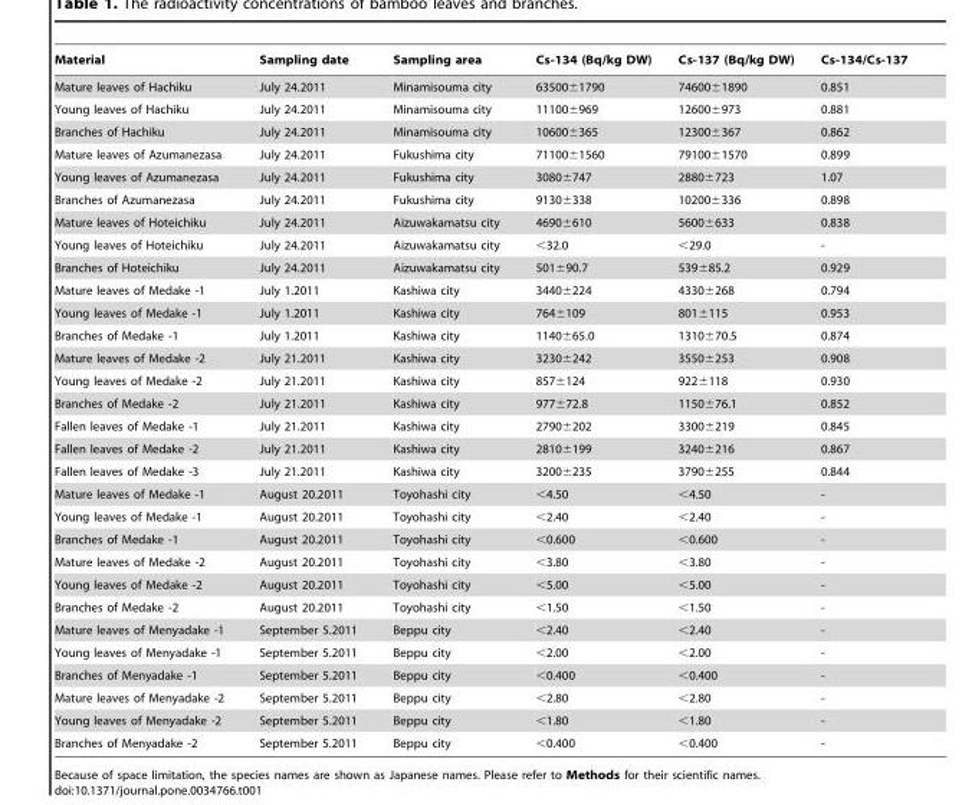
<table><thead><tr><td>Material</td><td>Sampling date</td><td>Sampling area</td><td>Cs-134 (Bq/kg DW)</td><td>Cs-137 (Bq/kg DW)</td><td>Cs-134/Cs-137</td></tr></thead><tbody><tr><td>Mature leaves of Hachiku</td><td>July 24.2011</td><td>Minamisouma city</td><td>63500±1790</td><td>74600±1890</td><td>0.851</td></tr><tr><td>Young leaves of Hachiku</td><td>July 24.2011</td><td>Minamisouma city</td><td>11100±969</td><td>12600±973</td><td>0.881</td></tr><tr><td>Branches of Hachiku</td><td>July 24.2011</td><td>Minamisouma city</td><td>10600±365</td><td>12300±367</td><td>0.862</td></tr><tr><td>Mature leaves of Azumanezasa</td><td>July 24.2011</td><td>Fukushima city</td><td>71100±1560</td><td>79100±1570</td><td>0.899</td></tr><tr><td>Young leaves of Azumanezasa</td><td>July 24.2011</td><td>Fukushima city</td><td>3080±747</td><td>2880±723</td><td>1.07</td></tr><tr><td>Branches of Azumanezasa</td><td>July 24.2011</td><td>Fukushima city</td><td>9130±338</td><td>10200±336</td><td>0.898</td></tr><tr><td>Mature leaves of Hoteichiku</td><td>July 24.2011</td><td>Aizuwakamatsu city</td><td>4690±610</td><td>5600±633</td><td>0.838</td></tr><tr><td>Young leaves of Hoteichiku</td><td>July 24.2011</td><td>Aizuwakamatsu city</td><td>&lt;32.0</td><td>&lt;29.0</td><td>-</td></tr><tr><td>Branches of Hoteichiku</td><td>July 24.2011</td><td>Aizuwakamatsu city</td><td>501±90.7</td><td>539±85.2</td><td>0.929</td></tr><tr><td>Mature leaves of Medake -1</td><td>July 1.2011</td><td>Kashiwa city</td><td>3440±224</td><td>4330±268</td><td>0.794</td></tr><tr><td>Young leaves of Medake -1</td><td>July 1.2011</td><td>Kashiwa city</td><td>764±109</td><td>801±115</td><td>0.953</td></tr><tr><td>Branches of Medake -1</td><td>July 1.2011</td><td>Kashiwa city</td><td>1140±65.0</td><td>1310±70.5</td><td>0.874</td></tr><tr><td>Mature leaves of Medake -2</td><td>July 21.2011</td><td>Kashiwa city</td><td>3230±242</td><td>3550±253</td><td>0.908</td></tr><tr><td>Young leaves of Medake -2</td><td>July 21.2011</td><td>Kashiwa city</td><td>857±124</td><td>922±118</td><td>0.930</td></tr><tr><td>Branches of Medake -2</td><td>July 21.2011</td><td>Kashiwa city</td><td>977±72.8</td><td>1150±76.1</td><td>0.852</td></tr><tr><td>Fallen leaves of Medake -1</td><td>July 21.2011</td><td>Kashiwa city</td><td>2790±202</td><td>3300±219</td><td>0.845</td></tr><tr><td>Fallen leaves of Medake -2</td><td>July 21.2011</td><td>Kashiwa city</td><td>2810±199</td><td>3240±216</td><td>0.867</td></tr><tr><td>Fallen leaves of Medake -3</td><td>July 21.2011</td><td>Kashiwa city</td><td>3200±235</td><td>3790±255</td><td>0.844</td></tr><tr><td>Mature leaves of Medake -1</td><td>August 20.2011</td><td>Toyohashi city</td><td>&lt;4.50</td><td>&lt;4.50</td><td>-</td></tr><tr><td>Young leaves of Medake -1</td><td>August 20.2011</td><td>Toyohashi city</td><td>&lt;2.40</td><td>&lt;2.40</td><td>-</td></tr><tr><td>Branches of Medake -1</td><td>August 20.2011</td><td>Toyohashi city</td><td>&lt;0.600</td><td>&lt;0.600</td><td>-</td></tr><tr><td>Mature leaves of Medake -2</td><td>August 20.2011</td><td>Toyohashi city</td><td>&lt;3.80</td><td>&lt;3.80</td><td>-</td></tr><tr><td>Young leaves of Medake -2</td><td>August 20.2011</td><td>Toyohashi city</td><td>&lt;5.00</td><td>&lt;5.00</td><td>-</td></tr><tr><td>Branches of Medake -2</td><td>August 20.2011</td><td>Toyohashi city</td><td>&lt;1.50</td><td>&lt;1.50</td><td>-</td></tr><tr><td>Mature leaves of Menyadake -1</td><td>September 5.2011</td><td>Beppu city</td><td>&lt;2.40</td><td>&lt;2.40</td><td>-</td></tr><tr><td>Young leaves of Menyadake -1</td><td>September 5.2011</td><td>Beppu city</td><td>&lt;2.00</td><td>&lt;2.00</td><td>-</td></tr><tr><td>Branches of Menyadake -1</td><td>September 5.2011</td><td>Beppu city</td><td>&lt;0.400</td><td>&lt;0.400</td><td>-</td></tr><tr><td>Mature leaves of Menyadake -2</td><td>September 5.2011</td><td>Beppu city</td><td>&lt;2.80</td><td>&lt;2.80</td><td>-</td></tr><tr><td>Young leaves of Menyadake -2</td><td>September 5.2011</td><td>Beppu city</td><td>&lt;1.80</td><td>&lt;1.80</td><td>-</td></tr><tr><td>Branches of Menyadake -2</td><td>September 5.2011</td><td>Beppu city</td><td>&lt;0.400</td><td>&lt;0.400</td><td>-</td></tr></tbody></table>